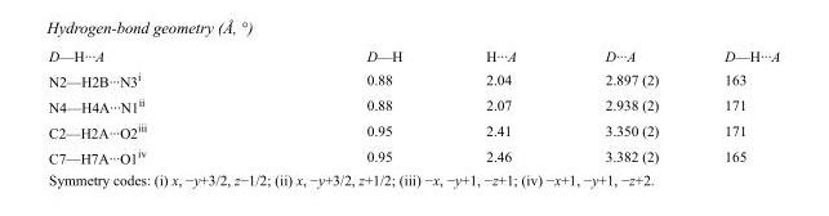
<table><tbody><tr><td>D—H···A</td><td>D—H</td><td>H···A</td><td>D···A</td><td>D—H···A</td></tr><tr><td>N2—H2B···N3<sup>i</sup></td><td>0.88</td><td>2.04</td><td>2.897 (2)</td><td>163</td></tr><tr><td>N4—H4A···N1<sup>ii</sup></td><td>0.88</td><td>2.07</td><td>2.938 (2)</td><td>171</td></tr><tr><td>C2—H2A···O2<sup>iii</sup></td><td>0.95</td><td>2.41</td><td>3.350 (2)</td><td>171</td></tr><tr><td>C7—H7A···O1<sup>iv</sup></td><td>0.95</td><td>2.46</td><td>3.382 (2)</td><td>165</td></tr></tbody></table>